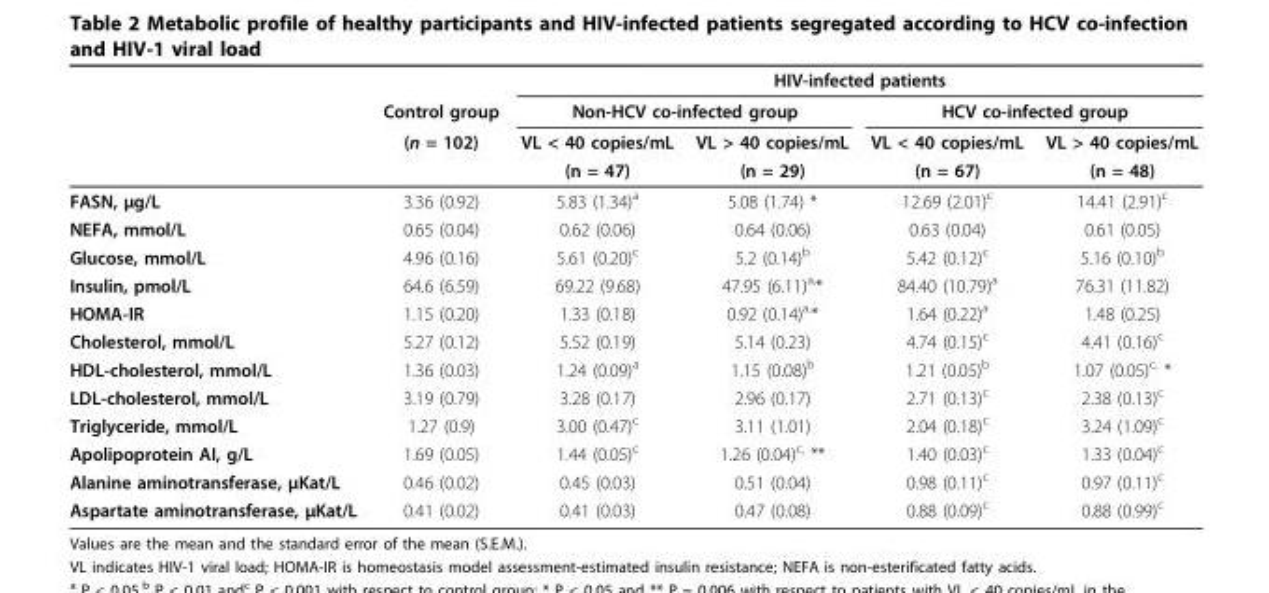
<table><thead><tr><td rowspan="4"></td><td rowspan="4">Control group (n = 102)</td><td colspan="4">HIV-infected patients</td></tr><tr><td colspan="2">Non-HCV co-infected group</td><td colspan="2">HCV co-infected group</td></tr><tr><td rowspan="2">VL &lt; 40 copies/mL (n = 47)</td><td rowspan="2">VL &gt; 40 copies/mL (n = 29)</td><td rowspan="2">VL &lt; 40 copies/mL (n = 67)</td><td rowspan="2">VL &gt; 40 copies/mL (n = 48)</td></tr><tr></tr></thead><tbody><tr><td>FASN, μg/L</td><td>3.36 (0.92)</td><td>5.83 (1.34)<sup>a</sup></td><td>5.08 (1.74) *</td><td>12.69 (2.01)<sup>c</sup></td><td>14.41 (2.91)<sup>c</sup></td></tr><tr><td>NEFA, mmol/L</td><td>0.65 (0.04)</td><td>0.62 (0.06)</td><td>0.64 (0.06)</td><td>0.63 (0.04)</td><td>0.61 (0.05)</td></tr><tr><td>Glucose, mmol/L</td><td>4.96 (0.16)</td><td>5.61 (0.20)<sup>c</sup></td><td>5.2 (0.14)<sup>b</sup></td><td>5.42 (0.12)<sup>c</sup></td><td>5.16 (0.10)<sup>b</sup></td></tr><tr><td>Insulin, pmol/L</td><td>64.6 (6.59)</td><td>69.22 (9.68)</td><td>47.95 (6.11)<sup>a,</sup>*</td><td>84.40 (10.79)<sup>a</sup></td><td>76.31 (11.82)</td></tr><tr><td>HOMA-IR</td><td>1.15 (0.20)</td><td>1.33 (0.18)</td><td>0.92 (0.14)<sup>a,</sup>*</td><td>1.64 (0.22)<sup>a</sup></td><td>1.48 (0.25)</td></tr><tr><td>Cholesterol, mmol/L</td><td>5.27 (0.12)</td><td>5.52 (0.19)</td><td>5.14 (0.23)</td><td>4.74 (0.15)<sup>c</sup></td><td>4.41 (0.16)<sup>c</sup></td></tr><tr><td>HDL-cholesterol, mmol/L</td><td>1.36 (0.03)</td><td>1.24 (0.09)<sup>a</sup></td><td>1.15 (0.08)<sup>b</sup></td><td>1.21 (0.05)<sup>b</sup></td><td>1.07 (0.05)<sup>c,</sup> *</td></tr><tr><td>LDL-cholesterol, mmol/L</td><td>3.19 (0.79)</td><td>3.28 (0.17)</td><td>2.96 (0.17)</td><td>2.71 (0.13)<sup>c</sup></td><td>2.38 (0.13)<sup>c</sup></td></tr><tr><td>Triglyceride, mmol/L</td><td>1.27 (0.9)</td><td>3.00 (0.47)<sup>c</sup></td><td>3.11 (1.01)</td><td>2.04 (0.18)<sup>c</sup></td><td>3.24 (1.09)<sup>c</sup></td></tr><tr><td>Apolipoprotein AI, g/L</td><td>1.69 (0.05)</td><td>1.44 (0.05)<sup>c</sup></td><td>1.26 (0.04)<sup>c,</sup> **</td><td>1.40 (0.03)<sup>c</sup></td><td>1.33 (0.04)<sup>c</sup></td></tr><tr><td>Alanine aminotransferase, μKat/L</td><td>0.46 (0.02)</td><td>0.45 (0.03)</td><td>0.51 (0.04)</td><td>0.98 (0.11)<sup>c</sup></td><td>0.97 (0.11)<sup>c</sup></td></tr><tr><td>Aspartate aminotransferase, μKat/L</td><td>0.41 (0.02)</td><td>0.41 (0.03)</td><td>0.47 (0.08)</td><td>0.88 (0.09)<sup>c</sup></td><td>0.88 (0.99)<sup>c</sup></td></tr></tbody></table>